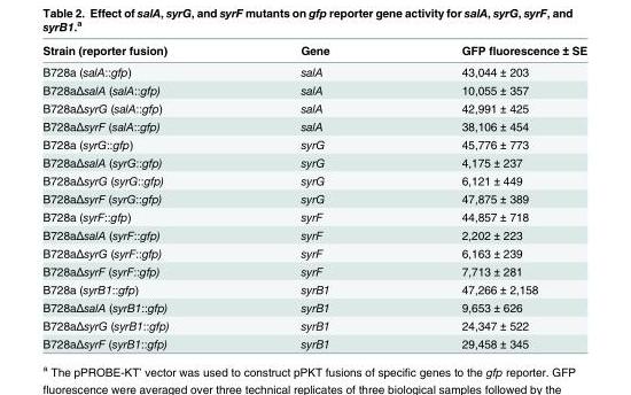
<table><thead><tr><td>Strain (reporter fusion)</td><td>Gene</td><td>GFP fluorescence ± SE</td></tr></thead><tbody><tr><td>B728a (salA::gfp)</td><td>salA</td><td>43,044 ± 203</td></tr><tr><td>B728aΔsalA (salA::gfp)</td><td>salA</td><td>10,055 ± 357</td></tr><tr><td>B728aΔsyrG (salA::gfp)</td><td>salA</td><td>42,991 ± 425</td></tr><tr><td>B728aΔsyrF (salA::gfp)</td><td>salA</td><td>38,106 ± 454</td></tr><tr><td>B728a (syrG::gfp)</td><td>syrG</td><td>45,776 ± 773</td></tr><tr><td>B728aΔsalA (syrG::gfp)</td><td>syrG</td><td>4,175 ± 237</td></tr><tr><td>B728aΔsyrG (syrG::gfp)</td><td>syrG</td><td>6,121 ± 449</td></tr><tr><td>B728aΔsyrF (syrG::gfp)</td><td>syrG</td><td>47,875 ± 389</td></tr><tr><td>B728a (syrF::gfp)</td><td>syrF</td><td>44,857 ± 718</td></tr><tr><td>B728aΔsalA (syrF::gfp)</td><td>syrF</td><td>2,202 ± 223</td></tr><tr><td>B728aΔsyrG (syrF::gfp)</td><td>syrF</td><td>6,163 ± 239</td></tr><tr><td>B728aΔsyrF (syrF::gfp)</td><td>syrF</td><td>7,713 ± 281</td></tr><tr><td>B728a (syrB1::gfp)</td><td>syrB1</td><td>47,266 ± 2,158</td></tr><tr><td>B728aΔsalA (syrB1::gfp)</td><td>syrB1</td><td>9,653 ± 626</td></tr><tr><td>B728aΔsyrG (syrB1::gfp)</td><td>syrB1</td><td>24,347 ± 522</td></tr><tr><td>B728aΔsyrF (syrB1::gfp)</td><td>syrB1</td><td>29,458 ± 345</td></tr></tbody></table>